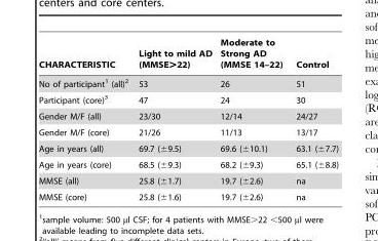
<table><thead><tr><td>CHARACTERISTIC</td><td>Light to mild AD (MMSE&gt;22)</td><td>Moderate to Strong AD (MMSE 14–22)</td><td>Control</td></tr></thead><tbody><tr><td>No of participant<sup>1</sup> (all)<sup>2</sup></td><td>53</td><td>26</td><td>51</td></tr><tr><td>Participant (core)<sup>3</sup></td><td>47</td><td>24</td><td>30</td></tr><tr><td>Gender M/F (all)</td><td>23/30</td><td>12/14</td><td>24/27</td></tr><tr><td>Gender M/F (core)</td><td>21/26</td><td>11/13</td><td>13/17</td></tr><tr><td>Age in years (all)</td><td>69.7 (±9.5)</td><td>69.6 (±10.1)</td><td>63.1 (±7.7)</td></tr><tr><td>Age in years (core)</td><td>68.5 (±9.3)</td><td>68.2 (±9.3)</td><td>65.1 (±8.8)</td></tr><tr><td>MMSE (all)</td><td>25.8 (±1.7)</td><td>19.7 (±2.6)</td><td>na</td></tr><tr><td>MMSE (core)</td><td>25.8 (±1.6)</td><td>19.7 (±2.6)</td><td>na</td></tr></tbody></table>